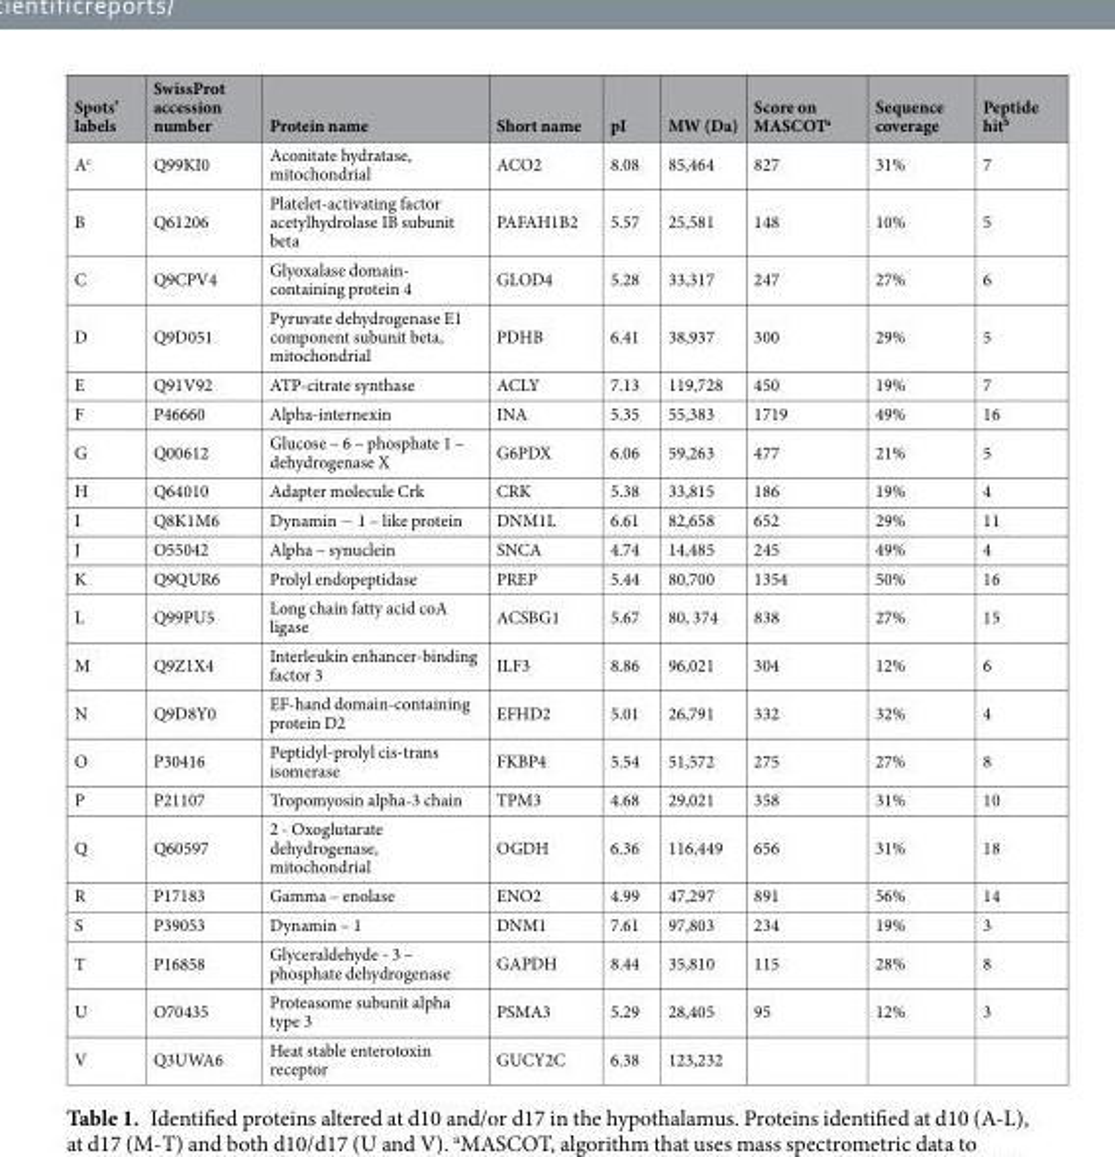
<table><thead><tr><td>Spots’ labels</td><td>SwissProt accession number</td><td>Protein name</td><td>Short name</td><td>pI</td><td>MW (Da)</td><td>Score on MASCOT<sup>a</sup></td><td>Sequence coverage</td><td>Peptide hit<sup>b</sup></td></tr></thead><tbody><tr><td>A<sup>c</sup></td><td>Q99KI0</td><td>Aconitate hydratase, mitochondrial</td><td>ACO2</td><td>8.08</td><td>85,464</td><td>827</td><td>31%</td><td>7</td></tr><tr><td>B</td><td>Q61206</td><td>Platelet-activating factor acetylhydrolase IB subunit beta</td><td>PAFAH1B2</td><td>5.57</td><td>25,581</td><td>148</td><td>10%</td><td>5</td></tr><tr><td>C</td><td>Q9CPV4</td><td>Glyoxalase domain- containing protein 4</td><td>GLOD4</td><td>5.28</td><td>33,317</td><td>247</td><td>27%</td><td>6</td></tr><tr><td>D</td><td>Q9D051</td><td>Pyruvate dehydrogenase E1 component subunit beta, mitochondrial</td><td>PDHB</td><td>6.41</td><td>38,937</td><td>300</td><td>29%</td><td>5</td></tr><tr><td>E</td><td>Q91V92</td><td>ATP-citrate synthase</td><td>ACLY</td><td>7.13</td><td>119,728</td><td>450</td><td>19%</td><td>7</td></tr><tr><td>F</td><td>P46660</td><td>Alpha-internexin</td><td>INA</td><td>5.35</td><td>55,383</td><td>1719</td><td>49%</td><td>16</td></tr><tr><td>G</td><td>Q00612</td><td>Glucose – 6 – phosphate 1 – dehydrogenase X</td><td>G6PDX</td><td>6.06</td><td>59,263</td><td>477</td><td>21%</td><td>5</td></tr><tr><td>H</td><td>Q64010</td><td>Adapter molecule Crk</td><td>CRK</td><td>5.38</td><td>33,815</td><td>186</td><td>19%</td><td>4</td></tr><tr><td>I</td><td>Q8K1M6</td><td>Dynamin − 1 – like protein</td><td>DNM1L</td><td>6.61</td><td>82,658</td><td>652</td><td>29%</td><td>11</td></tr><tr><td>J</td><td>O55042</td><td>Alpha – synuclein</td><td>SNCA</td><td>4.74</td><td>14,485</td><td>245</td><td>49%</td><td>4</td></tr><tr><td>K</td><td>Q9QUR6</td><td>Prolyl endopeptidase</td><td>PREP</td><td>5.44</td><td>80,700</td><td>1354</td><td>50%</td><td>16</td></tr><tr><td>L</td><td>Q99PU5</td><td>Long chain fatty acid coA ligase</td><td>ACSBG1</td><td>5.67</td><td>80, 374</td><td>838</td><td>27%</td><td>15</td></tr><tr><td>M</td><td>Q9Z1X4</td><td>Interleukin enhancer-binding factor 3</td><td>ILF3</td><td>8.86</td><td>96,021</td><td>304</td><td>12%</td><td>6</td></tr><tr><td>N</td><td>Q9D8Y0</td><td>EF-hand domain-containing protein D2</td><td>EFHD2</td><td>5.01</td><td>26,791</td><td>332</td><td>32%</td><td>4</td></tr><tr><td>O</td><td>P30416</td><td>Peptidyl-prolyl cis-trans isomerase</td><td>FKBP4</td><td>5.54</td><td>51,572</td><td>275</td><td>27%</td><td>8</td></tr><tr><td>P</td><td>P21107</td><td>Tropomyosin alpha-3 chain</td><td>TPM3</td><td>4.68</td><td>29,021</td><td>358</td><td>31%</td><td>10</td></tr><tr><td>Q</td><td>Q60597</td><td>2 - Oxoglutarate dehydrogenase, mitochondrial</td><td>OGDH</td><td>6.36</td><td>116,449</td><td>656</td><td>31%</td><td>18</td></tr><tr><td>R</td><td>P17183</td><td>Gamma – enolase</td><td>ENO2</td><td>4.99</td><td>47,297</td><td>891</td><td>56%</td><td>14</td></tr><tr><td>S</td><td>P39053</td><td>Dynamin – 1</td><td>DNM1</td><td>7.61</td><td>97,803</td><td>234</td><td>19%</td><td>3</td></tr><tr><td>T</td><td>P16858</td><td>Glyceraldehyde - 3 – phosphate dehydrogenase</td><td>GAPDH</td><td>8.44</td><td>35,810</td><td>115</td><td>28%</td><td>8</td></tr><tr><td>U</td><td>O70435</td><td>Proteasome subunit alpha type 3</td><td>PSMA3</td><td>5.29</td><td>28,405</td><td>95</td><td>12%</td><td>3</td></tr><tr><td>V</td><td>Q3UWA6</td><td>Heat stable enterotoxin receptor</td><td>GUCY2C</td><td>6.38</td><td>123,232</td><td></td><td></td><td></td></tr></tbody></table>